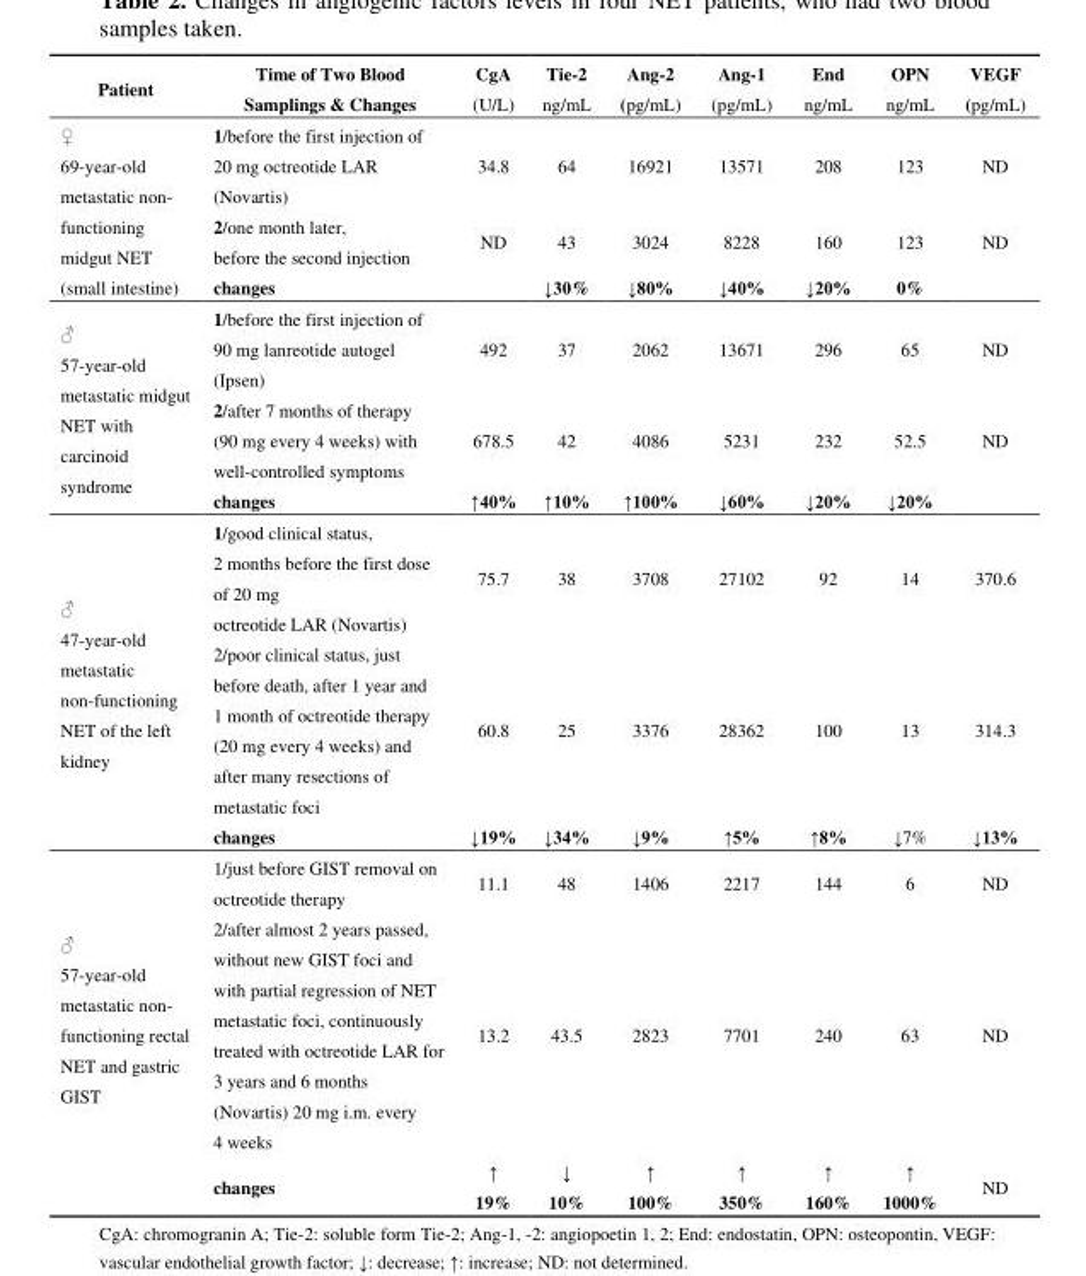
<table><thead><tr><td>Patient</td><td>Time of Two Blood Samplings &amp; Changes</td><td>CgA (U/L)</td><td>Tie-2 ng/mL</td><td>Ang-2 (pg/mL)</td><td>Ang-1 (pg/mL)</td><td>End ng/mL</td><td>OPN ng/mL</td><td>VEGF (pg/mL)</td></tr></thead><tbody><tr><td rowspan="3">♀ 69-year-old metastatic non- functioning midgut NET (small intestine)</td><td>1/before the first injection of 20 mg octreotide LAR (Novartis)</td><td>34.8</td><td>64</td><td>16921</td><td>13571</td><td>208</td><td>123</td><td>ND</td></tr><tr><td>2/one month later, before the second injection</td><td>ND</td><td>43</td><td>3024</td><td>8228</td><td>160</td><td>123</td><td>ND</td></tr><tr><td>changes</td><td></td><td>↓30%</td><td>↓80%</td><td>↓40%</td><td>↓20%</td><td>0%</td><td></td></tr><tr><td rowspan="3">♂ 57-year-old metastatic midgut NET with carcinoid syndrome</td><td>1/before the first injection of 90 mg lanreotide autogel (Ipsen)</td><td>492</td><td>37</td><td>2062</td><td>13671</td><td>296</td><td>65</td><td>ND</td></tr><tr><td>2/after 7 months of therapy (90 mg every 4 weeks) with well-controlled symptoms</td><td>678.5</td><td>42</td><td>4086</td><td>5231</td><td>232</td><td>52.5</td><td>ND</td></tr><tr><td>changes</td><td>↑40%</td><td>↑10%</td><td>↑100%</td><td>↓60%</td><td>↓20%</td><td>↓20%</td><td></td></tr><tr><td rowspan="3">♂ 47-year-old metastatic non-functioning NET of the left kidney</td><td>1/good clinical status, 2 months before the first dose of 20 mg octreotide LAR (Novartis)</td><td>75.7</td><td>38</td><td>3708</td><td>27102</td><td>92</td><td>14</td><td>370.6</td></tr><tr><td>2/poor clinical status, just before death, after 1 year and 1 month of octreotide therapy (20 mg every 4 weeks) and after many resections of metastatic foci</td><td>60.8</td><td>25</td><td>3376</td><td>28362</td><td>100</td><td>13</td><td>314.3</td></tr><tr><td>changes</td><td>↓19%</td><td>↓34%</td><td>↓9%</td><td>↑5%</td><td>↑8%</td><td>↓7%</td><td>↓13%</td></tr><tr><td rowspan="3">♂ 57-year-old metastatic non- functioning rectal NET and gastric GIST</td><td>1/just before GIST removal on octreotide therapy</td><td>11.1</td><td>48</td><td>1406</td><td>2217</td><td>144</td><td>6</td><td>ND</td></tr><tr><td>2/after almost 2 years passed, without new GIST foci and with partial regression of NET metastatic foci, continuously treated with octreotide LAR for 3 years and 6 months (Novartis) 20 mg i.m. every 4 weeks</td><td>13.2</td><td>43.5</td><td>2823</td><td>7701</td><td>240</td><td>63</td><td>ND</td></tr><tr><td>changes</td><td>↑ 19%</td><td>↓ 10%</td><td>↑ 100%</td><td>↑ 350%</td><td>↑ 160%</td><td>↑ 1000%</td><td>ND</td></tr></tbody></table>